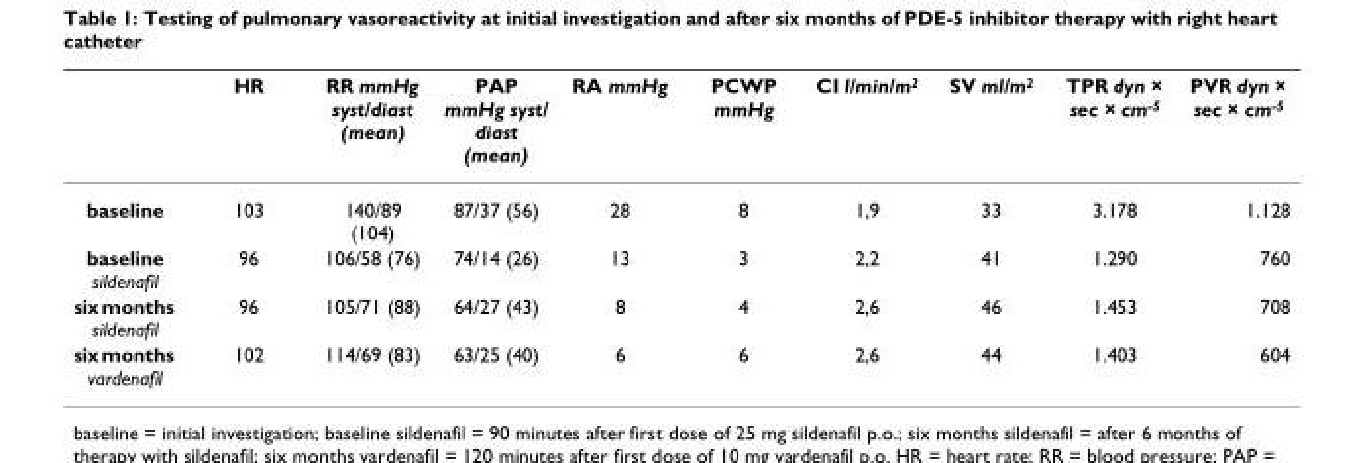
<table><thead><tr><td></td><td>HR</td><td>RR mmHg syst/diast (mean)</td><td>PAP mmHg syst/ diast (mean)</td><td>RA mmHg</td><td>PCWP mmHg</td><td>CI l/min/m<sup>2</sup></td><td>SV ml/m<sup>2</sup></td><td>TPR dyn × sec × cm<sup>-5</sup></td><td>PVR dyn × sec × cm<sup>-5</sup></td></tr></thead><tbody><tr><td>baseline</td><td>103</td><td>140/89 (104)</td><td>87/37 (56)</td><td>28</td><td>8</td><td>1,9</td><td>33</td><td>3.178</td><td>1.128</td></tr><tr><td>baseline sildenafil</td><td>96</td><td>106/58 (76)</td><td>74/14 (26)</td><td>13</td><td>3</td><td>2,2</td><td>41</td><td>1.290</td><td>760</td></tr><tr><td>six months sildenafil</td><td>96</td><td>105/71 (88)</td><td>64/27 (43)</td><td>8</td><td>4</td><td>2,6</td><td>46</td><td>1.453</td><td>708</td></tr><tr><td>six months vardenafil</td><td>102</td><td>114/69 (83)</td><td>63/25 (40)</td><td>6</td><td>6</td><td>2,6</td><td>44</td><td>1.403</td><td>604</td></tr></tbody></table>